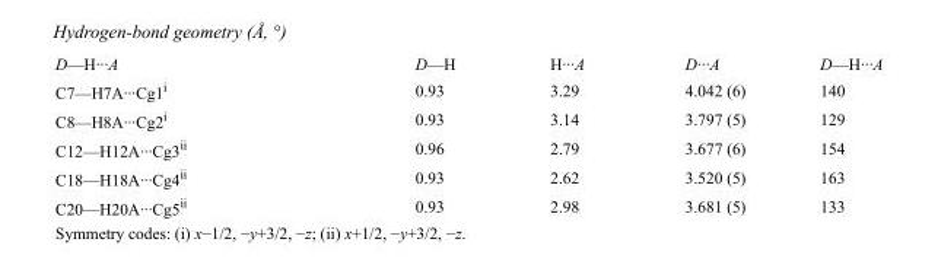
<table><tbody><tr><td>D—H···A</td><td>D—H</td><td>H···A</td><td>D···A</td><td>D—H···A</td></tr><tr><td>C7—H7A···Cg1<sup>i</sup></td><td>0.93</td><td>3.29</td><td>4.042 (6)</td><td>140</td></tr><tr><td>C8—H8A···Cg2<sup>i</sup></td><td>0.93</td><td>3.14</td><td>3.797 (5)</td><td>129</td></tr><tr><td>C12—H12A···Cg3<sup>ii</sup></td><td>0.96</td><td>2.79</td><td>3.677 (6)</td><td>154</td></tr><tr><td>C18—H18A···Cg4<sup>ii</sup></td><td>0.93</td><td>2.62</td><td>3.520 (5)</td><td>163</td></tr><tr><td>C20—H20A···Cg5<sup>ii</sup></td><td>0.93</td><td>2.98</td><td>3.681 (5)</td><td>133</td></tr></tbody></table>